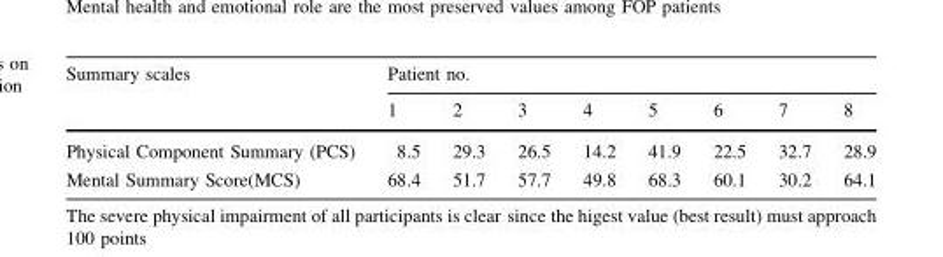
<table><thead><tr><td rowspan="2">Summary scales</td><td colspan="8">Patient no.</td></tr><tr><td>1</td><td>2</td><td>3</td><td>4</td><td>5</td><td>6</td><td>7</td><td>8</td></tr></thead><tbody><tr><td>Physical Component Summary (PCS)</td><td>8.5</td><td>29.3</td><td>26.5</td><td>14.2</td><td>41.9</td><td>22.5</td><td>32.7</td><td>28.9</td></tr><tr><td>Mental Summary Score(MCS)</td><td>68.4</td><td>51.7</td><td>57.7</td><td>49.8</td><td>68.3</td><td>60.1</td><td>30.2</td><td>64.1</td></tr></tbody></table>